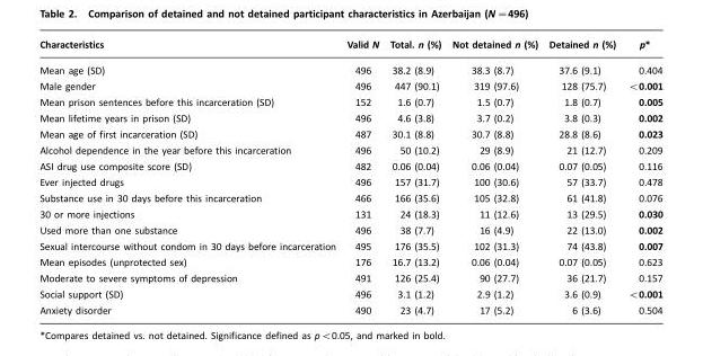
<table><thead><tr><td>Characteristics</td><td>Valid N</td><td>Total. n (%)</td><td>Not detained n (%)</td><td>Detained n (%)</td><td>p*</td></tr></thead><tbody><tr><td>Mean age (SD)</td><td>496</td><td>38.2 (8.9)</td><td>38.3 (8.7)</td><td>37.6 (9.1)</td><td>0.404</td></tr><tr><td>Male gender</td><td>496</td><td>447 (90.1)</td><td>319 (97.6)</td><td>128 (75.7)</td><td>&lt;0.001</td></tr><tr><td>Mean prison sentences before this incarceration (SD)</td><td>152</td><td>1.6 (0.7)</td><td>1.5 (0.7)</td><td>1.8 (0.7)</td><td>0.005</td></tr><tr><td>Mean lifetime years in prison (SD)</td><td>496</td><td>4.6 (3.8)</td><td>3.7 (0.2)</td><td>3.8 (0.3)</td><td>0.002</td></tr><tr><td>Mean age of first incarceration (SD)</td><td>487</td><td>30.1 (8.8)</td><td>30.7 (8.8)</td><td>28.8 (8.6)</td><td>0.023</td></tr><tr><td>Alcohol dependence in the year before this incarceration</td><td>496</td><td>50 (10.2)</td><td>29 (8.9)</td><td>21 (12.7)</td><td>0.209</td></tr><tr><td>ASI drug use composite score (SD)</td><td>482</td><td>0.06 (0.04)</td><td>0.06 (0.04)</td><td>0.07 (0.05)</td><td>0.116</td></tr><tr><td>Ever injected drugs</td><td>496</td><td>157 (31.7)</td><td>100 (30.6)</td><td>57 (33.7)</td><td>0.478</td></tr><tr><td>Substance use in 30 days before this incarceration</td><td>466</td><td>166 (35.6)</td><td>105 (32.8)</td><td>61 (41.8)</td><td>0.076</td></tr><tr><td>30 or more injections</td><td>131</td><td>24 (18.3)</td><td>11 (12.6)</td><td>13 (29.5)</td><td>0.030</td></tr><tr><td>Used more than one substance</td><td>496</td><td>38 (7.7)</td><td>16 (4.9)</td><td>22 (13.0)</td><td>0.002</td></tr><tr><td>Sexual intercourse without condom in 30 days before incarceration</td><td>495</td><td>176 (35.5)</td><td>102 (31.3)</td><td>74 (43.8)</td><td>0.007</td></tr><tr><td>Mean episodes (unprotected sex)</td><td>176</td><td>16.7 (13.2)</td><td>0.06 (0.04)</td><td>0.07 (0.05)</td><td>0.623</td></tr><tr><td>Moderate to severe symptoms of depression</td><td>491</td><td>126 (25.4)</td><td>90 (27.7)</td><td>36 (21.7)</td><td>0.157</td></tr><tr><td>Social support (SD)</td><td>496</td><td>3.1 (1.2)</td><td>2.9 (1.2)</td><td>3.6 (0.9)</td><td>&lt;0.001</td></tr><tr><td>Anxiety disorder</td><td>490</td><td>23 (4.7)</td><td>17 (5.2)</td><td>6 (3.6)</td><td>0.504</td></tr></tbody></table>